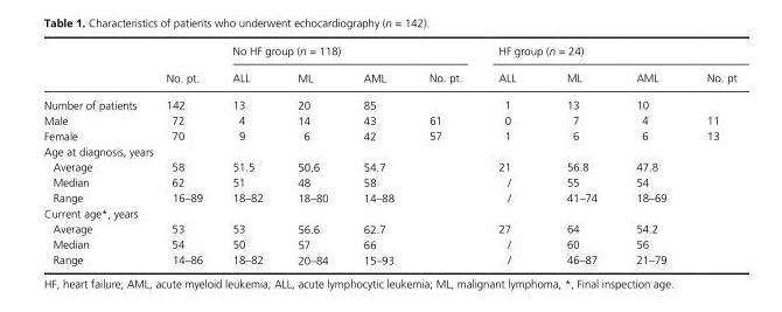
<table><thead><tr><td rowspan="2"></td><td rowspan="2">No. pt.</td><td colspan="4">No HF group (n = 118)</td><td colspan="4">HF group (n = 24)</td></tr><tr><td>ALL</td><td>ML</td><td>AML</td><td>No. pt.</td><td>ALL</td><td>ML</td><td>AML</td><td>No. pt</td></tr></thead><tbody><tr><td>Number of patients</td><td>142</td><td>13</td><td>20</td><td>85</td><td></td><td>1</td><td>13</td><td>10</td><td></td></tr><tr><td>Male</td><td>72</td><td>4</td><td>14</td><td>43</td><td>61</td><td>0</td><td>7</td><td>4</td><td>11</td></tr><tr><td>Female</td><td>70</td><td>9</td><td>6</td><td>42</td><td>57</td><td>1</td><td>6</td><td>6</td><td>13</td></tr><tr><td colspan="10">Age at diagnosis, years</td></tr><tr><td>Average</td><td>58</td><td>51.5</td><td>50.6</td><td>54.7</td><td></td><td>21</td><td>56.8</td><td>47.8</td><td></td></tr><tr><td>Median</td><td>62</td><td>51</td><td>48</td><td>58</td><td></td><td>/</td><td>55</td><td>54</td><td></td></tr><tr><td>Range</td><td>16–89</td><td>18–82</td><td>18–80</td><td>14–88</td><td></td><td>/</td><td>41–74</td><td>18–69</td><td></td></tr><tr><td colspan="10">Current age*, years</td></tr><tr><td>Average</td><td>53</td><td>53</td><td>56.6</td><td>62.7</td><td></td><td>27</td><td>64</td><td>54.2</td><td></td></tr><tr><td>Median</td><td>54</td><td>50</td><td>57</td><td>66</td><td></td><td>/</td><td>60</td><td>56</td><td></td></tr><tr><td>Range</td><td>14–86</td><td>18–82</td><td>20–84</td><td>15–93</td><td></td><td>/</td><td>46–87</td><td>21–79</td><td></td></tr></tbody></table>